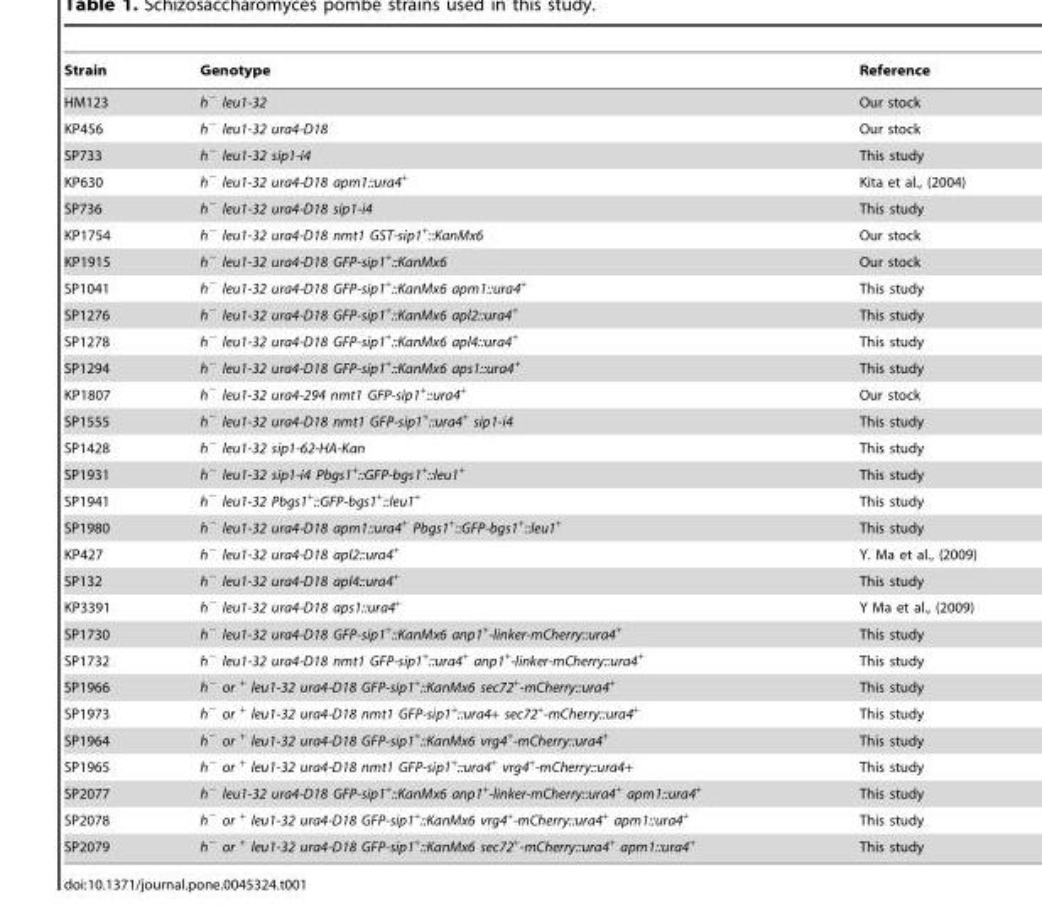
<table><thead><tr><td>Strain</td><td>Genotype</td><td>Reference</td></tr></thead><tbody><tr><td>HM123</td><td>h<sup>−</sup> leu1-32</td><td>Our stock</td></tr><tr><td>KP456</td><td>h<sup>−</sup> leu1-32 ura4-D18</td><td>Our stock</td></tr><tr><td>SP733</td><td>h<sup>−</sup> leu1-32 sip1-i4</td><td>This study</td></tr><tr><td>KP630</td><td>h<sup>−</sup> leu1-32 ura4-D18 apm1::ura4<sup>+</sup></td><td>Kita et al., (2004)</td></tr><tr><td>SP736</td><td>h<sup>−</sup> leu1-32 ura4-D18 sip1-i4</td><td>This study</td></tr><tr><td>KP1754</td><td>h<sup>−</sup> leu1-32 ura4-D18 nmt1 GST-sip1<sup>+</sup>::KanMx6</td><td>Our stock</td></tr><tr><td>KP1915</td><td>h<sup>−</sup> leu1-32 ura4-D18 GFP-sip1<sup>+</sup>::KanMx6</td><td>Our stock</td></tr><tr><td>SP1041</td><td>h<sup>−</sup> leu1-32 ura4-D18 GFP-sip1<sup>+</sup>::KanMx6 apm1::ura4<sup>+</sup></td><td>This study</td></tr><tr><td>SP1276</td><td>h<sup>−</sup> leu1-32 ura4-D18 GFP-sip1<sup>+</sup>::KanMx6 apl2::ura4<sup>+</sup></td><td>This study</td></tr><tr><td>SP1278</td><td>h<sup>−</sup> leu1-32 ura4-D18 GFP-sip1<sup>+</sup>::KanMx6 apl4::ura4<sup>+</sup></td><td>This study</td></tr><tr><td>SP1294</td><td>h<sup>−</sup> leu1-32 ura4-D18 GFP-sip1<sup>+</sup>::KanMx6 aps1::ura4<sup>+</sup></td><td>This study</td></tr><tr><td>KP1807</td><td>h<sup>−</sup> leu1-32 ura4-294 nmt1 GFP-sip1<sup>+</sup>::ura4<sup>+</sup></td><td>Our stock</td></tr><tr><td>SP1555</td><td>h<sup>−</sup> leu1-32 ura4-D18 nmt1 GFP-sip1<sup>+</sup>::ura4<sup>+</sup> sip1-i4</td><td>This study</td></tr><tr><td>SP1428</td><td>h<sup>−</sup> leu1-32 sip1-62-HA-Kan</td><td>This study</td></tr><tr><td>SP1931</td><td>h<sup>−</sup> leu1-32 sip1-i4 Pbgs1<sup>+</sup>::GFP-bgs1<sup>+</sup>::leu1<sup>+</sup></td><td>This study</td></tr><tr><td>SP1941</td><td>h<sup>−</sup> leu1-32 Pbgs1<sup>+</sup>::GFP-bgs1<sup>+</sup>::leu1<sup>+</sup></td><td>This study</td></tr><tr><td>SP1980</td><td>h<sup>−</sup> leu1-32 ura4-D18 apm1::ura4<sup>+</sup> Pbgs1<sup>+</sup>::GFP-bgs1<sup>+</sup>::leu1<sup>+</sup></td><td>This study</td></tr><tr><td>KP427</td><td>h<sup>−</sup> leu1-32 ura4-D18 apl2::ura4<sup>+</sup></td><td>Y. Ma et al., (2009)</td></tr><tr><td>SP132</td><td>h<sup>−</sup> leu1-32 ura4-D18 apl4::ura4<sup>+</sup></td><td>This study</td></tr><tr><td>KP3391</td><td>h<sup>−</sup> leu1-32 ura4-D18 aps1::ura4<sup>+</sup></td><td>Y Ma et al., (2009)</td></tr><tr><td>SP1730</td><td>h<sup>−</sup> leu1-32 ura4-D18 GFP-sip1<sup>+</sup>::KanMx6 anp1<sup>+</sup>-linker-mCherry::ura4<sup>+</sup></td><td>This study</td></tr><tr><td>SP1732</td><td>h<sup>−</sup> leu1-32 ura4-D18 nmt1 GFP-sip1<sup>+</sup>::ura4<sup>+</sup> anp1<sup>+</sup>-linker-mCherry::ura4<sup>+</sup></td><td>This study</td></tr><tr><td>SP1966</td><td>h<sup>−</sup> or <sup>+</sup> leu1-32 ura4-D18 GFP-sip1<sup>+</sup>::KanMx6 sec72<sup>+</sup>-mCherry::ura4<sup>+</sup></td><td>This study</td></tr><tr><td>SP1973</td><td>h<sup>−</sup> or <sup>+</sup> leu1-32 ura4-D18 nmt1 GFP-sip1<sup>+</sup>::ura4+ sec72<sup>+</sup>-mCherry::ura4<sup>+</sup></td><td>This study</td></tr><tr><td>SP1964</td><td>h<sup>−</sup> or <sup>+</sup> leu1-32 ura4-D18 GFP-sip1<sup>+</sup>::KanMx6 vrg4<sup>+</sup>-mCherry::ura4<sup>+</sup></td><td>This study</td></tr><tr><td>SP1965</td><td>h<sup>−</sup> or <sup>+</sup> leu1-32 ura4-D18 nmt1 GFP-sip1<sup>+</sup>::ura4<sup>+</sup> vrg4<sup>+</sup>-mCherry::ura4+</td><td>This study</td></tr><tr><td>SP2077</td><td>h<sup>−</sup> leu1-32 ura4-D18 GFP-sip1<sup>+</sup>::KanMx6 anp1<sup>+</sup>-linker-mCherry::ura4<sup>+</sup> apm1::ura4<sup>+</sup></td><td>This study</td></tr><tr><td>SP2078</td><td>h<sup>−</sup> or <sup>+</sup> leu1-32 ura4-D18 GFP-sip1<sup>+</sup>::KanMx6 vrg4<sup>+</sup>-mCherry::ura4<sup>+</sup> apm1::ura4<sup>+</sup></td><td>This study</td></tr><tr><td>SP2079</td><td>h<sup>−</sup> or <sup>+</sup> leu1-32 ura4-D18 GFP-sip1<sup>+</sup>::KanMx6 sec72<sup>+</sup>-mCherry::ura4<sup>+</sup> apm1::ura4<sup>+</sup></td><td>This study</td></tr></tbody></table>